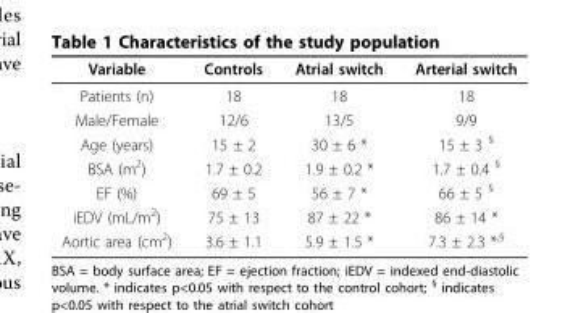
<table><thead><tr><td>Variable</td><td>Controls</td><td>Atrial switch</td><td>Arterial switch</td></tr></thead><tbody><tr><td>Patients (n)</td><td>18</td><td>18</td><td>18</td></tr><tr><td>Male/Female</td><td>12/6</td><td>13/5</td><td>9/9</td></tr><tr><td>Age (years)</td><td>15 ± 2</td><td>30 ± 6 *</td><td>15 ± 3 <sup>§</sup></td></tr><tr><td>BSA (m<sup>2</sup>)</td><td>1.7 ± 0.2</td><td>1.9 ± 0.2 *</td><td>1.7 ± 0.4 <sup>§</sup></td></tr><tr><td>EF (%)</td><td>69 ± 5</td><td>56 ± 7 *</td><td>66 ± 5 <sup>§</sup></td></tr><tr><td>iEDV (mL/m<sup>2</sup>)</td><td>75 ± 13</td><td>87 ± 22 *</td><td>86 ± 14 *</td></tr><tr><td>Aortic area (cm<sup>2</sup>)</td><td>3.6 ± 1.1</td><td>5.9 ± 1.5 *</td><td>7.3 ± 2.3 *<sup>,§</sup></td></tr></tbody></table>